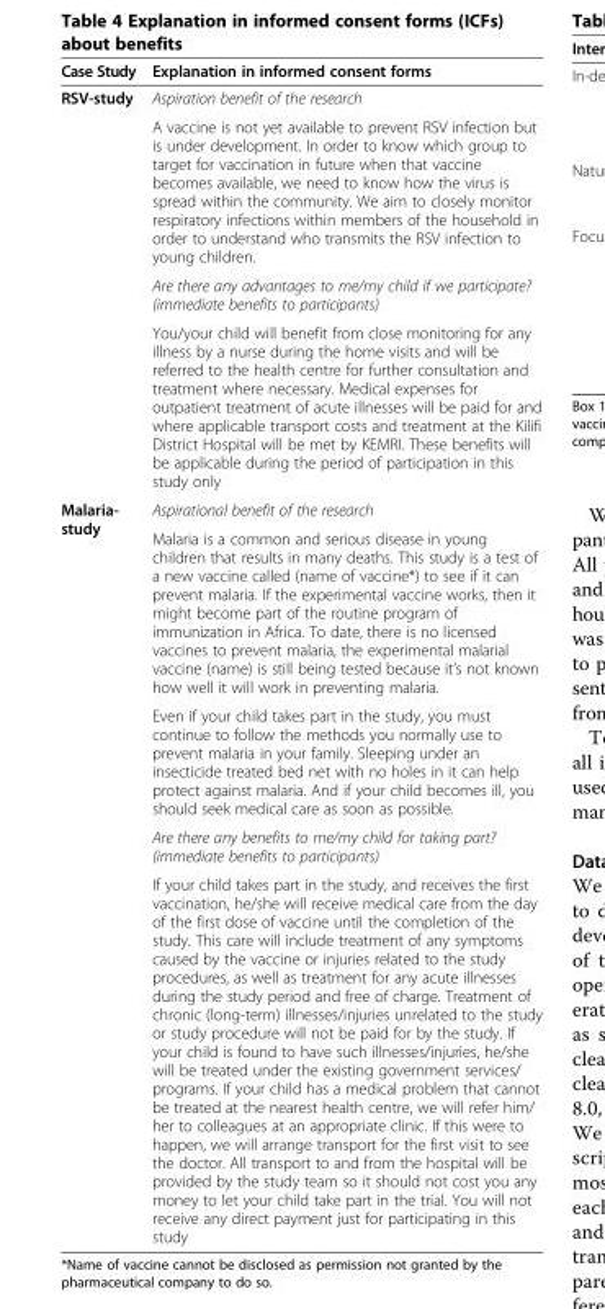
<table><thead><tr><td>Case Study</td><td>Explanation in informed consent forms</td></tr></thead><tbody><tr><td rowspan="4">RSV-study</td><td>Aspiration benefit of the research</td></tr><tr><td>A vaccine is not yet available to prevent RSV infection but is under development. In order to know which group to target for vaccination in future when that vaccine becomes available, we need to know how the virus is spread within the community. We aim to closely monitor respiratory infections within members of the household in order to understand who transmits the RSV infection to young children.</td></tr><tr><td>Are there any advantages to me/my child if we participate? (immediate benefits to participants)</td></tr><tr><td>You/your child will benefit from close monitoring for any illness by a nurse during the home visits and will be referred to the health centre for further consultation and treatment where necessary. Medical expenses for outpatient treatment of acute illnesses will be paid for and where applicable transport costs and treatment at the Kilifi District Hospital will be met by KEMRI. These benefits will be applicable during the period of participation in this study only</td></tr><tr><td rowspan="5">Malaria- study</td><td>Aspirational benefit of the research</td></tr><tr><td>Malaria is a common and serious disease in young children that results in many deaths. This study is a test of a new vaccine called (name of vaccine*) to see if it can prevent malaria. If the experimental vaccine works, then it might become part of the routine program of immunization in Africa. To date, there is no licensed vaccines to prevent malaria, the experimental malarial vaccine (name) is still being tested because it’s not known how well it will work in preventing malaria.</td></tr><tr><td>Even if your child takes part in the study, you must continue to follow the methods you normally use to prevent malaria in your family. Sleeping under an insecticide treated bed net with no holes in it can help protect against malaria. And if your child becomes ill, you should seek medical care as soon as possible.</td></tr><tr><td>Are there any benefits to me/my child for taking part? (immediate benefits to participants)</td></tr><tr><td>If your child takes part in the study, and receives the first vaccination, he/she will receive medical care from the day of the first dose of vaccine until the completion of the study. This care will include treatment of any symptoms caused by the vaccine or injuries related to the study procedures, as well as treatment for any acute illnesses during the study period and free of charge. Treatment of chronic (long-term) illnesses/injuries unrelated to the study or study procedure will not be paid for by the study. If your child is found to have such illnesses/injuries, he/she will be treated under the existing government services/ programs. If your child has a medical problem that cannot be treated at the nearest health centre, we will refer him/ her to colleagues at an appropriate clinic. If this were to happen, we will arrange transport for the first visit to see the doctor. All transport to and from the hospital will be provided by the study team so it should not cost you any money to let your child take part in the trial. You will not receive any direct payment just for participating in this study</td></tr></tbody></table>